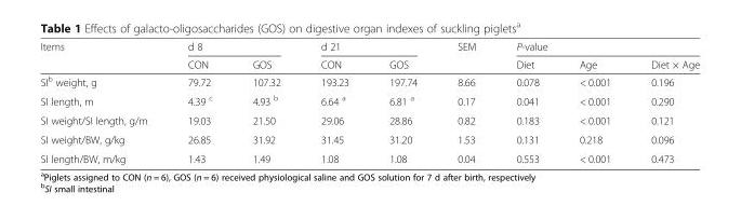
<table><thead><tr><td rowspan="2">Items</td><td colspan="2">d 8</td><td colspan="2">d 21</td><td rowspan="2">SEM</td><td colspan="3">P-value</td></tr><tr><td>CON</td><td>GOS</td><td>CON</td><td>GOS</td><td>Diet</td><td>Age</td><td>Diet × Age</td></tr></thead><tbody><tr><td>SI<sup>b</sup> weight, g</td><td>79.72</td><td>107.32</td><td>193.23</td><td>197.74</td><td>8.66</td><td>0.078</td><td>&lt; 0.001</td><td>0.196</td></tr><tr><td>SI length, m</td><td>4.39 <sup>c</sup></td><td>4.93 <sup>b</sup></td><td>6.64 <sup>a</sup></td><td>6.81 <sup>a</sup></td><td>0.17</td><td>0.041</td><td>&lt; 0.001</td><td>0.290</td></tr><tr><td>SI weight/SI length, g/m</td><td>19.03</td><td>21.50</td><td>29.06</td><td>28.86</td><td>0.82</td><td>0.183</td><td>&lt; 0.001</td><td>0.121</td></tr><tr><td>SI weight/BW, g/kg</td><td>26.85</td><td>31.92</td><td>31.45</td><td>31.20</td><td>1.53</td><td>0.131</td><td>0.218</td><td>0.096</td></tr><tr><td>SI length/BW, m/kg</td><td>1.43</td><td>1.49</td><td>1.08</td><td>1.08</td><td>0.04</td><td>0.553</td><td>&lt; 0.001</td><td>0.473</td></tr></tbody></table>